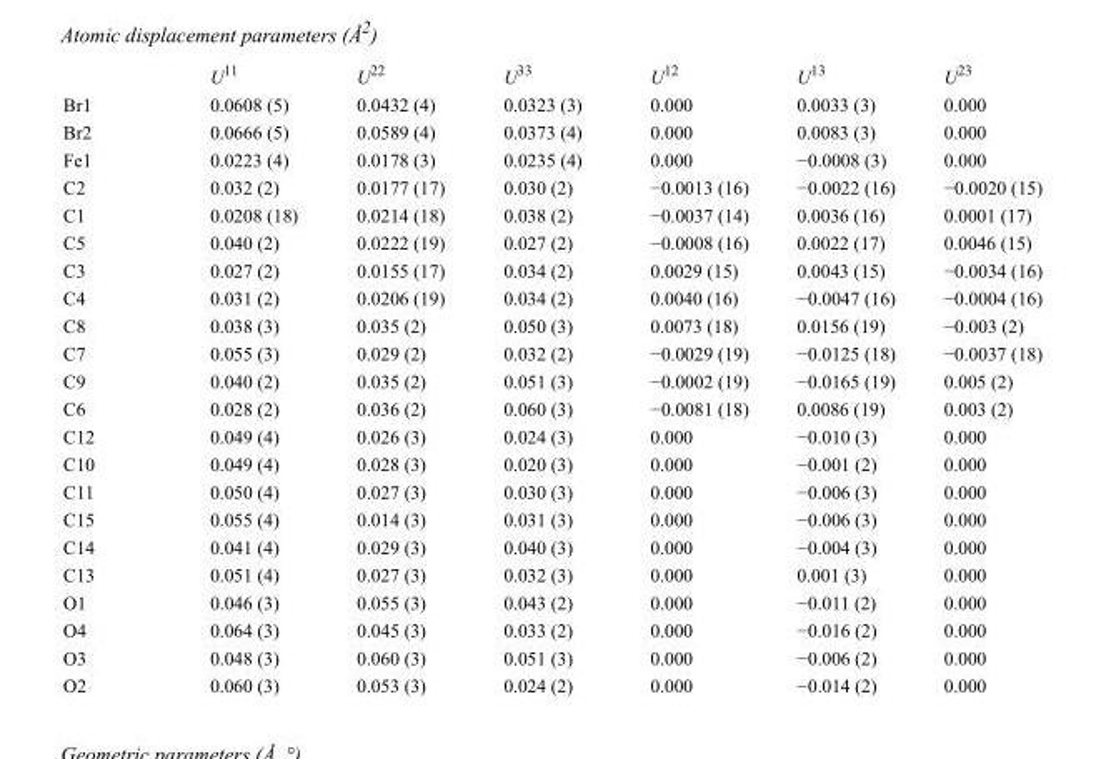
<table><thead><tr><td></td><td>U<sup>11</sup></td><td>U<sup>22</sup></td><td>U<sup>33</sup></td><td>U<sup>12</sup></td><td>U<sup>13</sup></td><td>U<sup>23</sup></td></tr></thead><tbody><tr><td>Br1</td><td>0.0608 (5)</td><td>0.0432 (4)</td><td>0.0323 (3)</td><td>0.000</td><td>0.0033 (3)</td><td>0.000</td></tr><tr><td>Br2</td><td>0.0666 (5)</td><td>0.0589 (4)</td><td>0.0373 (4)</td><td>0.000</td><td>0.0083 (3)</td><td>0.000</td></tr><tr><td>Fe1</td><td>0.0223 (4)</td><td>0.0178 (3)</td><td>0.0235 (4)</td><td>0.000</td><td>−0.0008 (3)</td><td>0.000</td></tr><tr><td>C2</td><td>0.032 (2)</td><td>0.0177 (17)</td><td>0.030 (2)</td><td>−0.0013 (16)</td><td>−0.0022 (16)</td><td>−0.0020 (15)</td></tr><tr><td>C1</td><td>0.0208 (18)</td><td>0.0214 (18)</td><td>0.038 (2)</td><td>−0.0037 (14)</td><td>0.0036 (16)</td><td>0.0001 (17)</td></tr><tr><td>C5</td><td>0.040 (2)</td><td>0.0222 (19)</td><td>0.027 (2)</td><td>−0.0008 (16)</td><td>0.0022 (17)</td><td>0.0046 (15)</td></tr><tr><td>C3</td><td>0.027 (2)</td><td>0.0155 (17)</td><td>0.034 (2)</td><td>0.0029 (15)</td><td>0.0043 (15)</td><td>−0.0034 (16)</td></tr><tr><td>C4</td><td>0.031 (2)</td><td>0.0206 (19)</td><td>0.034 (2)</td><td>0.0040 (16)</td><td>−0.0047 (16)</td><td>−0.0004 (16)</td></tr><tr><td>C8</td><td>0.038 (3)</td><td>0.035 (2)</td><td>0.050 (3)</td><td>0.0073 (18)</td><td>0.0156 (19)</td><td>−0.003 (2)</td></tr><tr><td>C7</td><td>0.055 (3)</td><td>0.029 (2)</td><td>0.032 (2)</td><td>−0.0029 (19)</td><td>−0.0125 (18)</td><td>−0.0037 (18)</td></tr><tr><td>C9</td><td>0.040 (2)</td><td>0.035 (2)</td><td>0.051 (3)</td><td>−0.0002 (19)</td><td>−0.0165 (19)</td><td>0.005 (2)</td></tr><tr><td>C6</td><td>0.028 (2)</td><td>0.036 (2)</td><td>0.060 (3)</td><td>−0.0081 (18)</td><td>0.0086 (19)</td><td>0.003 (2)</td></tr><tr><td>C12</td><td>0.049 (4)</td><td>0.026 (3)</td><td>0.024 (3)</td><td>0.000</td><td>−0.010 (3)</td><td>0.000</td></tr><tr><td>C10</td><td>0.049 (4)</td><td>0.028 (3)</td><td>0.020 (3)</td><td>0.000</td><td>−0.001 (2)</td><td>0.000</td></tr><tr><td>C11</td><td>0.050 (4)</td><td>0.027 (3)</td><td>0.030 (3)</td><td>0.000</td><td>−0.006 (3)</td><td>0.000</td></tr><tr><td>C15</td><td>0.055 (4)</td><td>0.014 (3)</td><td>0.031 (3)</td><td>0.000</td><td>−0.006 (3)</td><td>0.000</td></tr><tr><td>C14</td><td>0.041 (4)</td><td>0.029 (3)</td><td>0.040 (3)</td><td>0.000</td><td>−0.004 (3)</td><td>0.000</td></tr><tr><td>C13</td><td>0.051 (4)</td><td>0.027 (3)</td><td>0.032 (3)</td><td>0.000</td><td>0.001 (3)</td><td>0.000</td></tr><tr><td>O1</td><td>0.046 (3)</td><td>0.055 (3)</td><td>0.043 (2)</td><td>0.000</td><td>−0.011 (2)</td><td>0.000</td></tr><tr><td>O4</td><td>0.064 (3)</td><td>0.045 (3)</td><td>0.033 (2)</td><td>0.000</td><td>−0.016 (2)</td><td>0.000</td></tr><tr><td>O3</td><td>0.048 (3)</td><td>0.060 (3)</td><td>0.051 (3)</td><td>0.000</td><td>−0.006 (2)</td><td>0.000</td></tr><tr><td>O2</td><td>0.060 (3)</td><td>0.053 (3)</td><td>0.024 (2)</td><td>0.000</td><td>−0.014 (2)</td><td>0.000</td></tr></tbody></table>